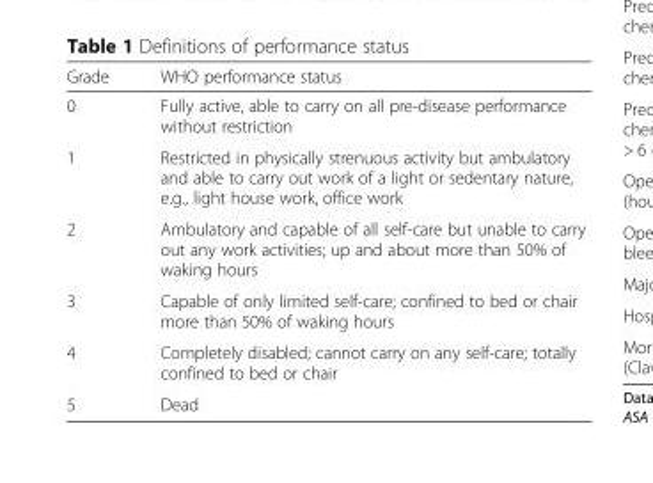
<table><thead><tr><td>Grade</td><td>WHO performance status</td></tr></thead><tbody><tr><td>0</td><td>Fully active, able to carry on all pre-disease performance without restriction</td></tr><tr><td>1</td><td>Restricted in physically strenuous activity but ambulatory and able to carry out work of a light or sedentary nature, e.g., light house work, office work</td></tr><tr><td>2</td><td>Ambulatory and capable of all self-care but unable to carry out any work activities; up and about more than 50% of waking hours</td></tr><tr><td>3</td><td>Capable of only limited self-care; confined to bed or chair more than 50% of waking hours</td></tr><tr><td>4</td><td>Completely disabled; cannot carry on any self-care; totally confined to bed or chair</td></tr><tr><td>5</td><td>Dead</td></tr></tbody></table>